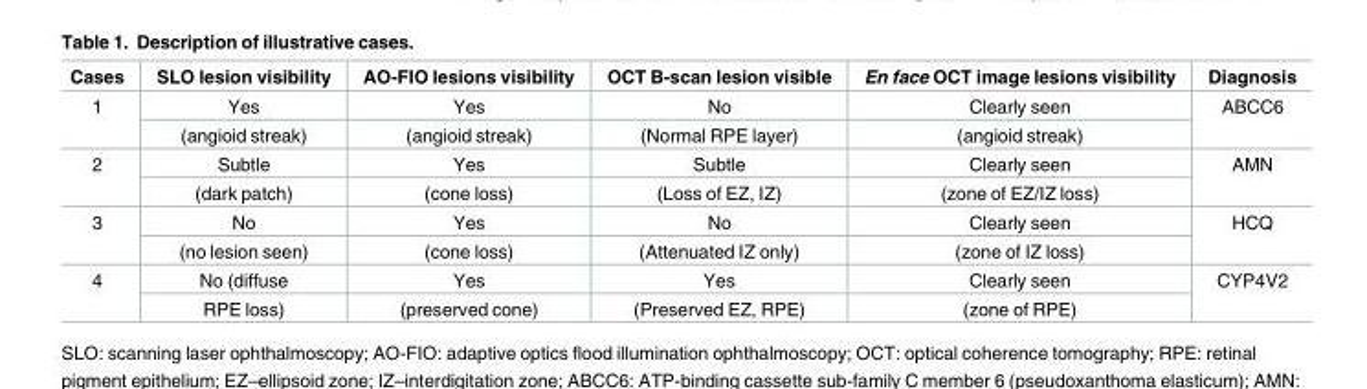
<table><thead><tr><td>Cases</td><td>SLO lesion visibility</td><td>AO-FIO lesions visibility</td><td>OCT B-scan lesion visible</td><td>En face OCT image lesions visibility</td><td>Diagnosis</td></tr></thead><tbody><tr><td rowspan="2">1</td><td>Yes</td><td>Yes</td><td>No</td><td>Clearly seen</td><td rowspan="2">ABCC6</td></tr><tr><td>(angioid streak)</td><td>(angioid streak)</td><td>(Normal RPE layer)</td><td>(angioid streak)</td></tr><tr><td rowspan="2">2</td><td>Subtle</td><td>Yes</td><td>Subtle</td><td>Clearly seen</td><td rowspan="2">AMN</td></tr><tr><td>(dark patch)</td><td>(cone loss)</td><td>(Loss of EZ, IZ)</td><td>(zone of EZ/IZ loss)</td></tr><tr><td rowspan="2">3</td><td>No</td><td>Yes</td><td>No</td><td>Clearly seen</td><td rowspan="2">HCQ</td></tr><tr><td>(no lesion seen)</td><td>(cone loss)</td><td>(Attenuated IZ only)</td><td>(zone of IZ loss)</td></tr><tr><td rowspan="2">4</td><td>No (diffuse</td><td>Yes</td><td>Yes</td><td>Clearly seen</td><td rowspan="2">CYP4V2</td></tr><tr><td>RPE loss)</td><td>(preserved cone)</td><td>(Preserved EZ, RPE)</td><td>(zone of RPE)</td></tr></tbody></table>